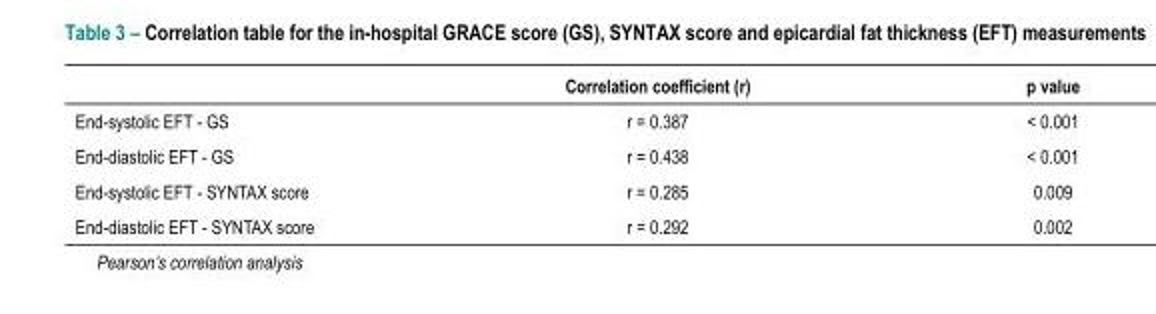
<table><thead><tr><td></td><td>Correlation coefficient (r)</td><td>p value</td></tr></thead><tbody><tr><td>End-systolic EFT - GS</td><td>r = 0.387</td><td>&lt; 0.001</td></tr><tr><td>End-diastolic EFT - GS</td><td>r = 0.438</td><td>&lt; 0.001</td></tr><tr><td>End-systolic EFT - SYNTAX score</td><td>r = 0.285</td><td>0.009</td></tr><tr><td>End-diastolic EFT - SYNTAX score</td><td>r = 0.292</td><td>0.002</td></tr></tbody></table>